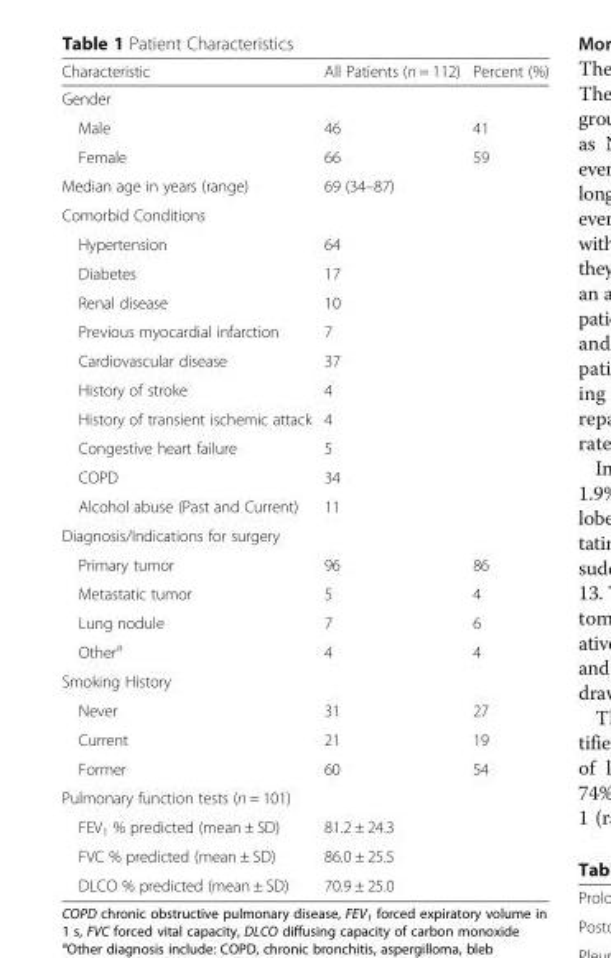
<table><thead><tr><td>Characteristic</td><td>All Patients (n = 112)</td><td>Percent (%)</td></tr></thead><tbody><tr><td colspan="3">Gender</td></tr><tr><td>Male</td><td>46</td><td>41</td></tr><tr><td>Female</td><td>66</td><td>59</td></tr><tr><td>Median age in years (range)</td><td>69 (34–87)</td><td></td></tr><tr><td colspan="3">Comorbid Conditions</td></tr><tr><td>Hypertension</td><td>64</td><td></td></tr><tr><td>Diabetes</td><td>17</td><td></td></tr><tr><td>Renal disease</td><td>10</td><td></td></tr><tr><td>Previous myocardial infarction</td><td>7</td><td></td></tr><tr><td>Cardiovascular disease</td><td>37</td><td></td></tr><tr><td>History of stroke</td><td>4</td><td></td></tr><tr><td>History of transient ischemic attack</td><td>4</td><td></td></tr><tr><td>Congestive heart failure</td><td>5</td><td></td></tr><tr><td>COPD</td><td>34</td><td></td></tr><tr><td>Alcohol abuse (Past and Current)</td><td>11</td><td></td></tr><tr><td colspan="3">Diagnosis/Indications for surgery</td></tr><tr><td>Primary tumor</td><td>96</td><td>86</td></tr><tr><td>Metastatic tumor</td><td>5</td><td>4</td></tr><tr><td>Lung nodule</td><td>7</td><td>6</td></tr><tr><td>Other<sup>a</sup></td><td>4</td><td>4</td></tr><tr><td colspan="3">Smoking History</td></tr><tr><td>Never</td><td>31</td><td>27</td></tr><tr><td>Current</td><td>21</td><td>19</td></tr><tr><td>Former</td><td>60</td><td>54</td></tr><tr><td colspan="3">Pulmonary function tests (n = 101)</td></tr><tr><td>FEV<sub>1</sub> % predicted (mean ± SD)</td><td>81.2 ± 24.3</td><td></td></tr><tr><td>FVC % predicted (mean ± SD)</td><td>86.0 ± 25.5</td><td></td></tr><tr><td>DLCO % predicted (mean ± SD)</td><td>70.9 ± 25.0</td><td></td></tr></tbody></table>